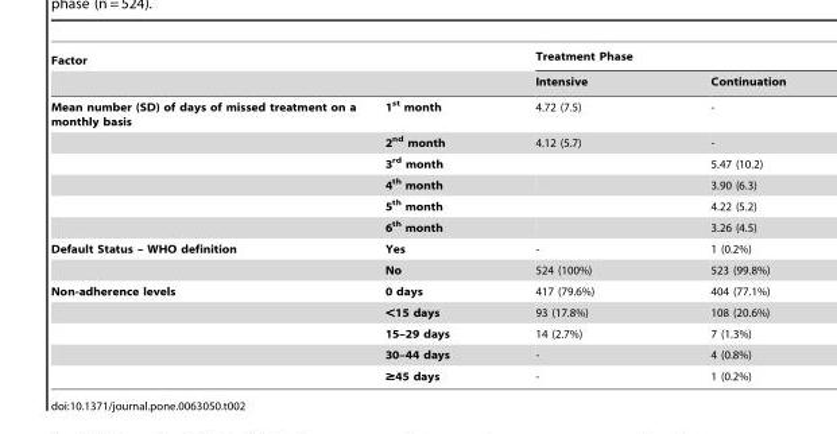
<table><thead><tr><td rowspan="2">Factor</td><td rowspan="2"></td><td colspan="2">Treatment Phase</td></tr><tr><td>Intensive</td><td>Continuation</td></tr></thead><tbody><tr><td rowspan="6">Mean number (SD) of days of missed treatment on a monthly basis</td><td>1<sup>st</sup> month</td><td>4.72 (7.5)</td><td>-</td></tr><tr><td>2<sup>nd</sup> month</td><td>4.12 (5.7)</td><td>-</td></tr><tr><td>3<sup>rd</sup> month</td><td></td><td>5.47 (10.2)</td></tr><tr><td>4<sup>th</sup> month</td><td></td><td>3.90 (6.3)</td></tr><tr><td>5<sup>th</sup> month</td><td></td><td>4.22 (5.2)</td></tr><tr><td>6<sup>th</sup> month</td><td></td><td>3.26 (4.5)</td></tr><tr><td rowspan="2">Default Status – WHO definition</td><td>Yes</td><td>-</td><td>1 (0.2%)</td></tr><tr><td>No</td><td>524 (100%)</td><td>523 (99.8%)</td></tr><tr><td rowspan="5">Non-adherence levels</td><td>0 days</td><td>417 (79.6%)</td><td>404 (77.1%)</td></tr><tr><td>&lt;15 days</td><td>93 (17.8%)</td><td>108 (20.6%)</td></tr><tr><td>15–29 days</td><td>14 (2.7%)</td><td>7 (1.3%)</td></tr><tr><td>30–44 days</td><td>-</td><td>4 (0.8%)</td></tr><tr><td>≥45 days</td><td>-</td><td>1 (0.2%)</td></tr></tbody></table>